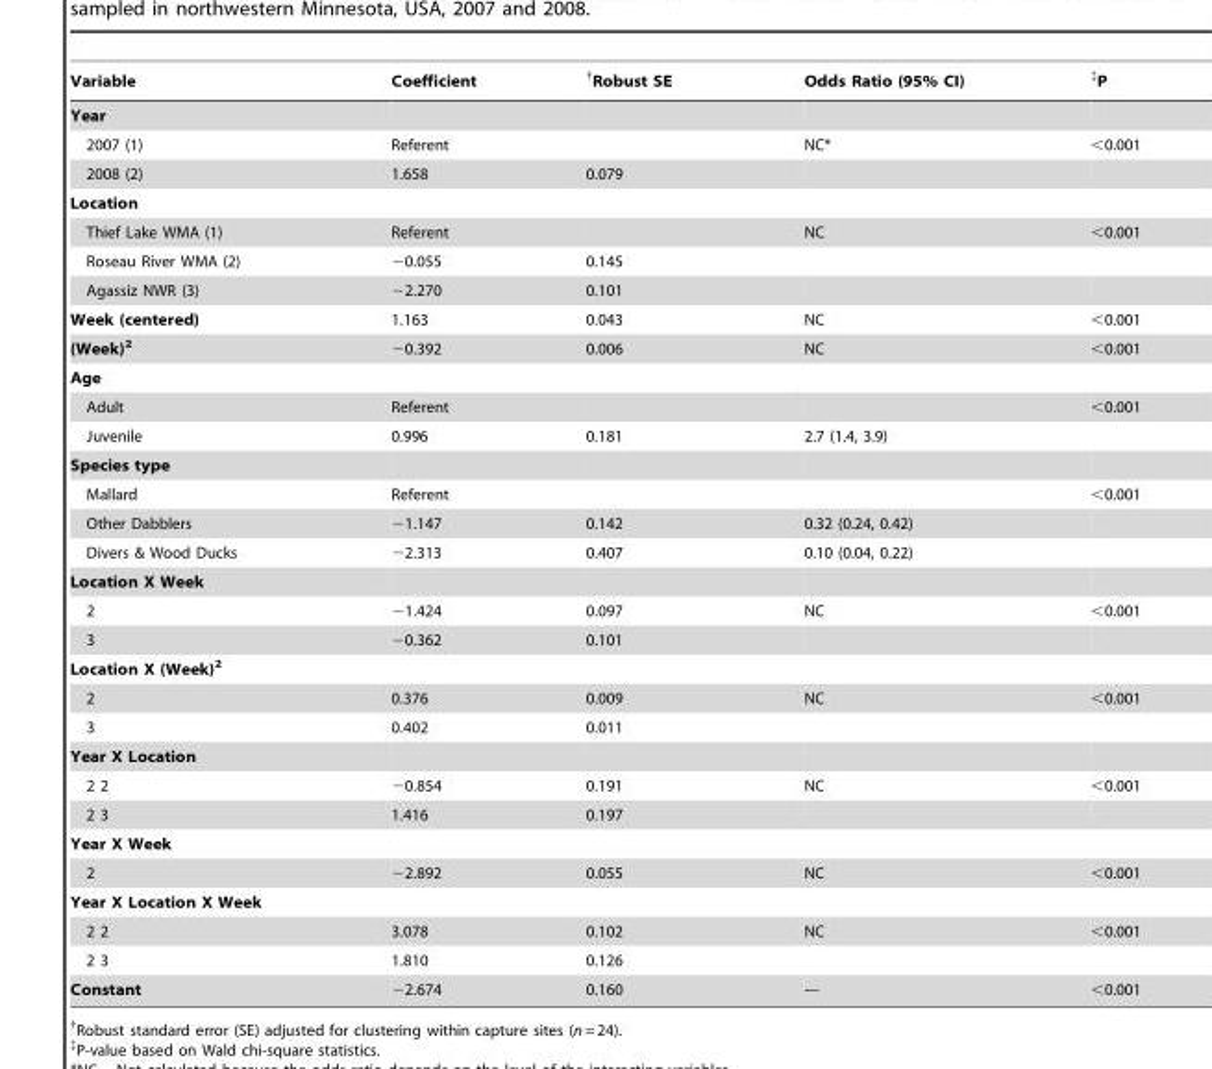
<table><thead><tr><td>Variable</td><td>Coefficient</td><td>†Robust SE</td><td>Odds Ratio (95% CI)</td><td>‡P</td></tr></thead><tbody><tr><td colspan="5">Year</td></tr><tr><td>2007 (1)</td><td>Referent</td><td></td><td>NC*</td><td>&lt;0.001</td></tr><tr><td>2008 (2)</td><td>1.658</td><td>0.079</td><td></td><td></td></tr><tr><td colspan="5">Location</td></tr><tr><td>Thief Lake WMA (1)</td><td>Referent</td><td></td><td>NC</td><td>&lt;0.001</td></tr><tr><td>Roseau River WMA (2)</td><td>−0.055</td><td>0.145</td><td></td><td></td></tr><tr><td>Agassiz NWR (3)</td><td>−2.270</td><td>0.101</td><td></td><td></td></tr><tr><td>Week (centered)</td><td>1.163</td><td>0.043</td><td>NC</td><td>&lt;0.001</td></tr><tr><td>(Week)<sup>2</sup></td><td>−0.392</td><td>0.006</td><td>NC</td><td>&lt;0.001</td></tr><tr><td colspan="5">Age</td></tr><tr><td>Adult</td><td>Referent</td><td></td><td></td><td>&lt;0.001</td></tr><tr><td>Juvenile</td><td>0.996</td><td>0.181</td><td>2.7 (1.4, 3.9)</td><td></td></tr><tr><td colspan="5">Species type</td></tr><tr><td>Mallard</td><td>Referent</td><td></td><td></td><td>&lt;0.001</td></tr><tr><td>Other Dabblers</td><td>−1.147</td><td>0.142</td><td>0.32 (0.24, 0.42)</td><td></td></tr><tr><td>Divers &amp; Wood Ducks</td><td>−2.313</td><td>0.407</td><td>0.10 (0.04, 0.22)</td><td></td></tr><tr><td colspan="5">Location X Week</td></tr><tr><td>2</td><td>−1.424</td><td>0.097</td><td>NC</td><td>&lt;0.001</td></tr><tr><td>3</td><td>−0.362</td><td>0.101</td><td></td><td></td></tr><tr><td colspan="5">Location X (Week)<sup>2</sup></td></tr><tr><td>2</td><td>0.376</td><td>0.009</td><td>NC</td><td>&lt;0.001</td></tr><tr><td>3</td><td>0.402</td><td>0.011</td><td></td><td></td></tr><tr><td colspan="5">Year X Location</td></tr><tr><td>2 2</td><td>−0.854</td><td>0.191</td><td>NC</td><td>&lt;0.001</td></tr><tr><td>2 3</td><td>1.416</td><td>0.197</td><td></td><td></td></tr><tr><td colspan="5">Year X Week</td></tr><tr><td>2</td><td>−2.892</td><td>0.055</td><td>NC</td><td>&lt;0.001</td></tr><tr><td colspan="5">Year X Location X Week</td></tr><tr><td>2 2</td><td>3.078</td><td>0.102</td><td>NC</td><td>&lt;0.001</td></tr><tr><td>2 3</td><td>1.810</td><td>0.126</td><td></td><td></td></tr><tr><td>Constant</td><td>−2.674</td><td>0.160</td><td>---</td><td>&lt;0.001</td></tr></tbody></table>